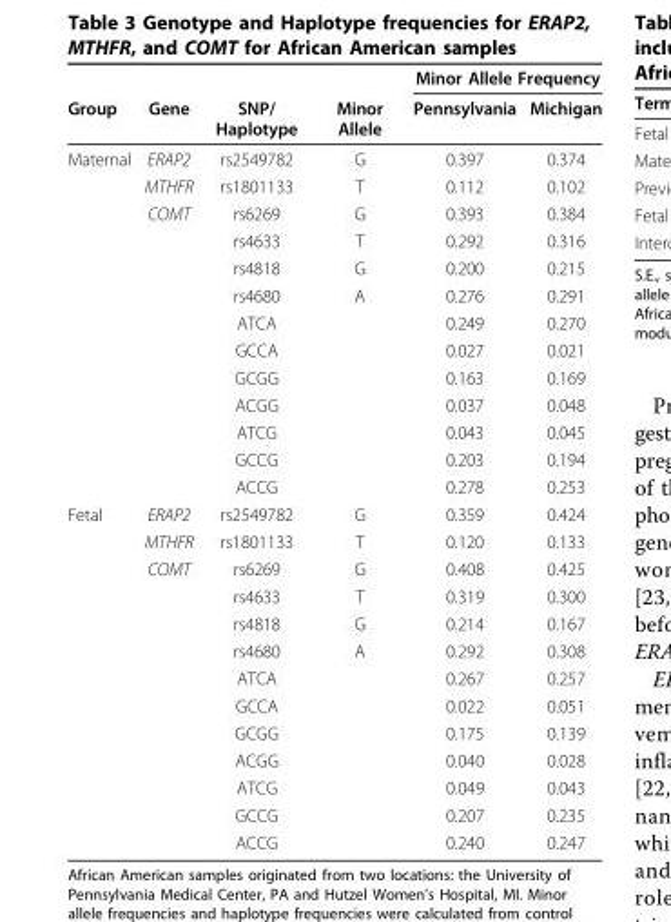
<table><thead><tr><td rowspan="2">Group</td><td rowspan="2">Gene</td><td rowspan="2">SNP/ Haplotype</td><td rowspan="2">Minor Allele</td><td colspan="2">Minor Allele Frequency</td></tr><tr><td>Pennsylvania</td><td>Michigan</td></tr></thead><tbody><tr><td rowspan="13">Maternal</td><td>ERAP2</td><td>rs2549782</td><td>G</td><td>0.397</td><td>0.374</td></tr><tr><td>MTHFR</td><td>rs1801133</td><td>T</td><td>0.112</td><td>0.102</td></tr><tr><td>COMT</td><td>rs6269</td><td>G</td><td>0.393</td><td>0.384</td></tr><tr><td></td><td>rs4633</td><td>T</td><td>0.292</td><td>0.316</td></tr><tr><td></td><td>rs4818</td><td>G</td><td>0.200</td><td>0.215</td></tr><tr><td></td><td>rs4680</td><td>A</td><td>0.276</td><td>0.291</td></tr><tr><td></td><td>ATCA</td><td></td><td>0.249</td><td>0.270</td></tr><tr><td></td><td>GCCA</td><td></td><td>0.027</td><td>0.021</td></tr><tr><td></td><td>GCGG</td><td></td><td>0.163</td><td>0.169</td></tr><tr><td></td><td>ACGG</td><td></td><td>0.037</td><td>0.048</td></tr><tr><td></td><td>ATCG</td><td></td><td>0.043</td><td>0.045</td></tr><tr><td></td><td>GCCG</td><td></td><td>0.203</td><td>0.194</td></tr><tr><td></td><td>ACCG</td><td></td><td>0.278</td><td>0.253</td></tr><tr><td rowspan="13">Fetal</td><td>ERAP2</td><td>rs2549782</td><td>G</td><td>0.359</td><td>0.424</td></tr><tr><td>MTHFR</td><td>rs1801133</td><td>T</td><td>0.120</td><td>0.133</td></tr><tr><td>COMT</td><td>rs6269</td><td>G</td><td>0.408</td><td>0.425</td></tr><tr><td></td><td>rs4633</td><td>T</td><td>0.319</td><td>0.300</td></tr><tr><td></td><td>rs4818</td><td>G</td><td>0.214</td><td>0.167</td></tr><tr><td></td><td>rs4680</td><td>A</td><td>0.292</td><td>0.308</td></tr><tr><td></td><td>ATCA</td><td></td><td>0.267</td><td>0.257</td></tr><tr><td></td><td>GCCA</td><td></td><td>0.022</td><td>0.051</td></tr><tr><td></td><td>GCGG</td><td></td><td>0.175</td><td>0.139</td></tr><tr><td></td><td>ACGG</td><td></td><td>0.040</td><td>0.028</td></tr><tr><td></td><td>ATCG</td><td></td><td>0.049</td><td>0.043</td></tr><tr><td></td><td>GCCG</td><td></td><td>0.207</td><td>0.235</td></tr><tr><td></td><td>ACCG</td><td></td><td>0.240</td><td>0.247</td></tr></tbody></table>